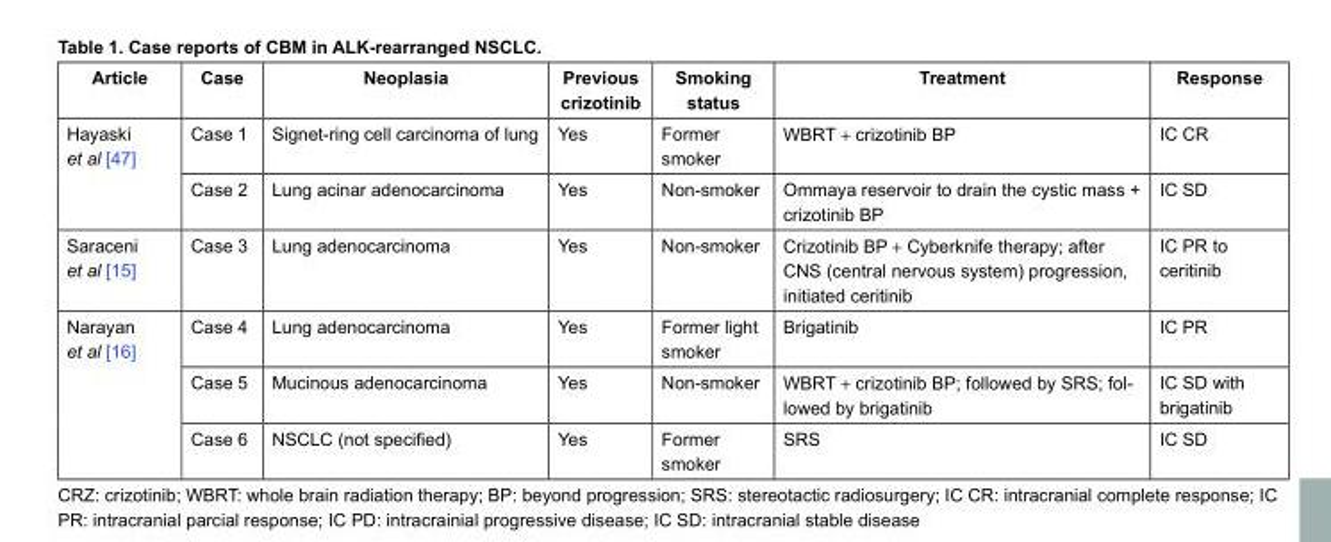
<table><thead><tr><td>Article</td><td>Case</td><td>Neoplasia</td><td>Previous crizotinib</td><td>Smoking status</td><td>Treatment</td><td>Response</td></tr></thead><tbody><tr><td rowspan="2">Hayaski et al [47]</td><td>Case 1</td><td>Signet-ring cell carcinoma of lung</td><td>Yes</td><td>Former smoker</td><td>WBRT + crizotinib BP</td><td>IC CR</td></tr><tr><td>Case 2</td><td>Lung acinar adenocarcinoma</td><td>Yes</td><td>Non-smoker</td><td>Ommaya reservoir to drain the cystic mass + crizotinib BP</td><td>IC SD</td></tr><tr><td>Saraceni et al [15]</td><td>Case 3</td><td>Lung adenocarcinoma</td><td>Yes</td><td>Non-smoker</td><td>Crizotinib BP + Cyberknife therapy; after CNS (central nervous system) progression, initiated ceritinib</td><td>IC PR to ceritinib</td></tr><tr><td rowspan="3">Narayan et al [16]</td><td>Case 4</td><td>Lung adenocarcinoma</td><td>Yes</td><td>Former light smoker</td><td>Brigatinib</td><td>IC PR</td></tr><tr><td>Case 5</td><td>Mucinous adenocarcinoma</td><td>Yes</td><td>Non-smoker</td><td>WBRT + crizotinib BP; followed by SRS; fol- lowed by brigatinib</td><td>IC SD with brigatinib</td></tr><tr><td>Case 6</td><td>NSCLC (not specified)</td><td>Yes</td><td>Former smoker</td><td>SRS</td><td>IC SD</td></tr></tbody></table>